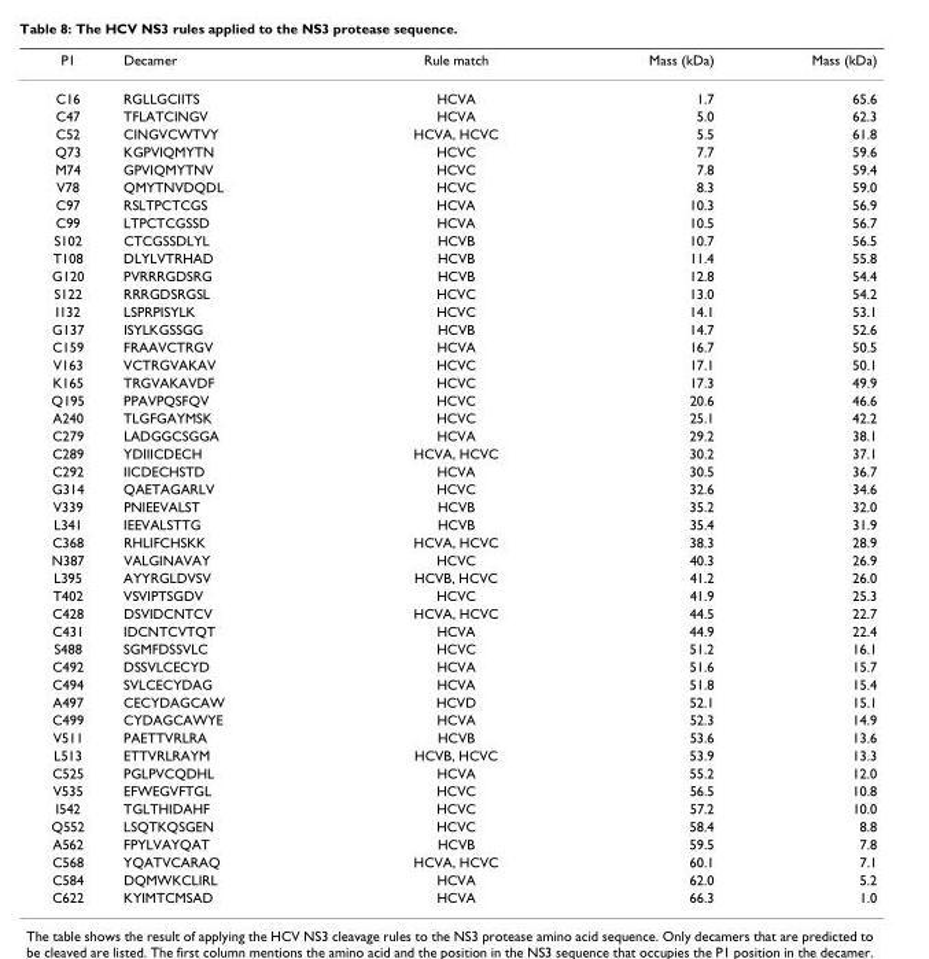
<table><thead><tr><td>P1</td><td>Decamer</td><td>Rule match</td><td>Mass (kDa)</td><td>Mass (kDa)</td></tr></thead><tbody><tr><td>C16</td><td>RGLLGCIITS</td><td>HCVA</td><td>1.7</td><td>65.6</td></tr><tr><td>C47</td><td>TFLATCINGV</td><td>HCVA</td><td>5.0</td><td>62.3</td></tr><tr><td>C52</td><td>CINGVCWTVY</td><td>HCVA, HCVC</td><td>5.5</td><td>61.8</td></tr><tr><td>Q73</td><td>KGPVIQMYTN</td><td>HCVC</td><td>7.7</td><td>59.6</td></tr><tr><td>M74</td><td>GPVIQMYTNV</td><td>HCVC</td><td>7.8</td><td>59.4</td></tr><tr><td>V78</td><td>QMYTNVDQDL</td><td>HCVC</td><td>8.3</td><td>59.0</td></tr><tr><td>C97</td><td>RSLTPCTCGS</td><td>HCVA</td><td>10.3</td><td>56.9</td></tr><tr><td>C99</td><td>LTPCTCGSSD</td><td>HCVA</td><td>10.5</td><td>56.7</td></tr><tr><td>S102</td><td>CTCGSSDLYL</td><td>HCVB</td><td>10.7</td><td>56.5</td></tr><tr><td>T108</td><td>DLYLVTRHAD</td><td>HCVB</td><td>11.4</td><td>55.8</td></tr><tr><td>G120</td><td>PVRRRGDSRG</td><td>HCVB</td><td>12.8</td><td>54.4</td></tr><tr><td>S122</td><td>RRRGDSRGSL</td><td>HCVC</td><td>13.0</td><td>54.2</td></tr><tr><td>I132</td><td>LSPRPISYLK</td><td>HCVC</td><td>14.1</td><td>53.1</td></tr><tr><td>G137</td><td>ISYLKGSSGG</td><td>HCVB</td><td>14.7</td><td>52.6</td></tr><tr><td>C159</td><td>FRAAVCTRGV</td><td>HCVA</td><td>16.7</td><td>50.5</td></tr><tr><td>V163</td><td>VCTRGVAKAV</td><td>HCVC</td><td>17.1</td><td>50.1</td></tr><tr><td>K165</td><td>TRGVAKAVDF</td><td>HCVC</td><td>17.3</td><td>49.9</td></tr><tr><td>Q195</td><td>PPAVPQSFQV</td><td>HCVC</td><td>20.6</td><td>46.6</td></tr><tr><td>A240</td><td>TLGFGAYMSK</td><td>HCVC</td><td>25.1</td><td>42.2</td></tr><tr><td>C279</td><td>LADGGCSGGA</td><td>HCVA</td><td>29.2</td><td>38.1</td></tr><tr><td>C289</td><td>YDIIICDECH</td><td>HCVA, HCVC</td><td>30.2</td><td>37.1</td></tr><tr><td>C292</td><td>IICDECHSTD</td><td>HCVA</td><td>30.5</td><td>36.7</td></tr><tr><td>G314</td><td>QAETAGARLV</td><td>HCVC</td><td>32.6</td><td>34.6</td></tr><tr><td>V339</td><td>PNIEEVALST</td><td>HCVB</td><td>35.2</td><td>32.0</td></tr><tr><td>L341</td><td>IEEVALSTTG</td><td>HCVB</td><td>35.4</td><td>31.9</td></tr><tr><td>C368</td><td>RHLIFCHSKK</td><td>HCVA, HCVC</td><td>38.3</td><td>28.9</td></tr><tr><td>N387</td><td>VALGINAVAY</td><td>HCVC</td><td>40.3</td><td>26.9</td></tr><tr><td>L395</td><td>AYYRGLDVSV</td><td>HCVB, HCVC</td><td>41.2</td><td>26.0</td></tr><tr><td>T402</td><td>VSVIPTSGDV</td><td>HCVC</td><td>41.9</td><td>25.3</td></tr><tr><td>C428</td><td>DSVIDCNTCV</td><td>HCVA, HCVC</td><td>44.5</td><td>22.7</td></tr><tr><td>C431</td><td>IDCNTCVTQT</td><td>HCVA</td><td>44.9</td><td>22.4</td></tr><tr><td>S488</td><td>SGMFDSSVLC</td><td>HCVC</td><td>51.2</td><td>16.1</td></tr><tr><td>C492</td><td>DSSVLCECYD</td><td>HCVA</td><td>51.6</td><td>15.7</td></tr><tr><td>C494</td><td>SVLCECYDAG</td><td>HCVA</td><td>51.8</td><td>15.4</td></tr><tr><td>A497</td><td>CECYDAGCAW</td><td>HCVD</td><td>52.1</td><td>15.1</td></tr><tr><td>C499</td><td>CYDAGCAWYE</td><td>HCVA</td><td>52.3</td><td>14.9</td></tr><tr><td>V511</td><td>PAETTVRLRA</td><td>HCVB</td><td>53.6</td><td>13.6</td></tr><tr><td>L513</td><td>ETTVRLRAYM</td><td>HCVB, HCVC</td><td>53.9</td><td>13.3</td></tr><tr><td>C525</td><td>PGLPVCQDHL</td><td>HCVA</td><td>55.2</td><td>12.0</td></tr><tr><td>V535</td><td>EFWEGVFTGL</td><td>HCVC</td><td>56.5</td><td>10.8</td></tr><tr><td>I542</td><td>TGLTHIDAHF</td><td>HCVC</td><td>57.2</td><td>10.0</td></tr><tr><td>Q552</td><td>LSQTKQSGEN</td><td>HCVC</td><td>58.4</td><td>8.8</td></tr><tr><td>A562</td><td>FPYLVAYQAT</td><td>HCVB</td><td>59.5</td><td>7.8</td></tr><tr><td>C568</td><td>YQATVCARAQ</td><td>HCVA, HCVC</td><td>60.1</td><td>7.1</td></tr><tr><td>C584</td><td>DQMWKCLIRL</td><td>HCVA</td><td>62.0</td><td>5.2</td></tr><tr><td>C622</td><td>KYIMTCMSAD</td><td>HCVA</td><td>66.3</td><td>1.0</td></tr></tbody></table>